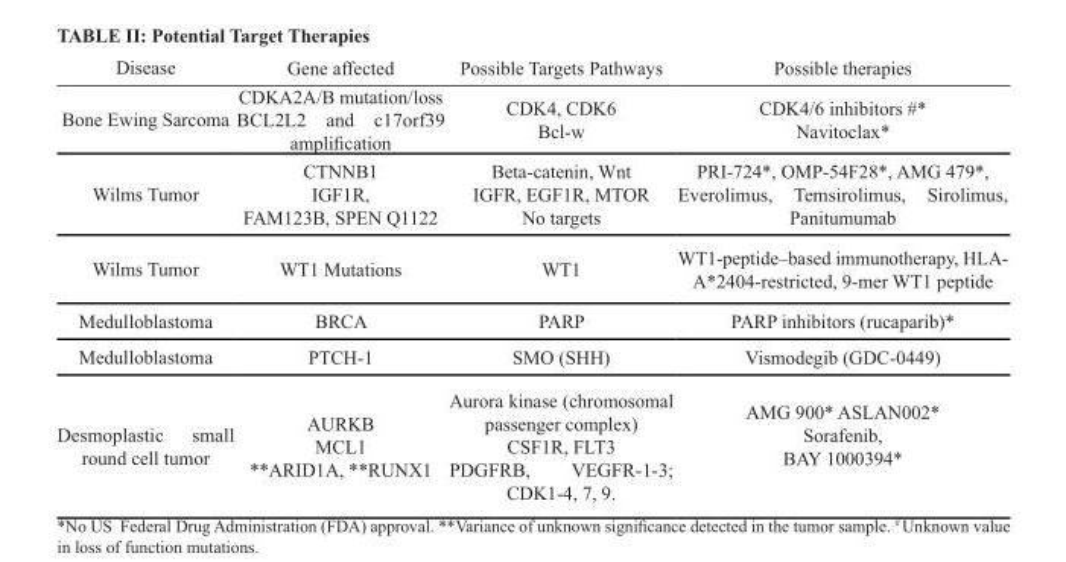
<table><thead><tr><td>Disease</td><td>Gene affected</td><td>Possible Targets Pathways</td><td>Possible therapies</td></tr></thead><tbody><tr><td>Bone Ewing Sarcoma</td><td>CDKA2A/B mutation/loss BCL2L2 and c17orf39 amplification</td><td>CDK4, CDK6 Bcl-w</td><td>CDK4/6 inhibitors <sup>#</sup>* Navitoclax*</td></tr><tr><td>Wilms Tumor</td><td>CTNNB1 IGF1R, FAM123B, SPEN Q1122</td><td>Beta-catenin, Wnt IGFR, EGF1R, MTOR No targets</td><td>PRI-724*, OMP-54F28*, AMG 479*, Everolimus, Temsirolimus, Sirolimus, Panitumumab</td></tr><tr><td>Wilms Tumor</td><td>WT1 Mutations</td><td>WT1</td><td>WT1-peptide–based immunotherapy, HLA- A*2404-restricted, 9-mer WT1 peptide</td></tr><tr><td>Medulloblastoma</td><td>BRCA</td><td>PARP</td><td>PARP inhibitors (rucaparib)*</td></tr><tr><td>Medulloblastoma</td><td>PTCH-1</td><td>SMO (SHH)</td><td>Vismodegib (GDC-0449)</td></tr><tr><td>Desmoplastic small round cell tumor</td><td>AURKB MCL1 **ARID1A, **RUNX1</td><td>Aurora kinase (chromosomal passenger complex) CSF1R, FLT3 PDGFRB, VEGFR-1-3; CDK1-4, 7, 9.</td><td>AMG 900* ASLAN002* Sorafenib, BAY 1000394*</td></tr></tbody></table>